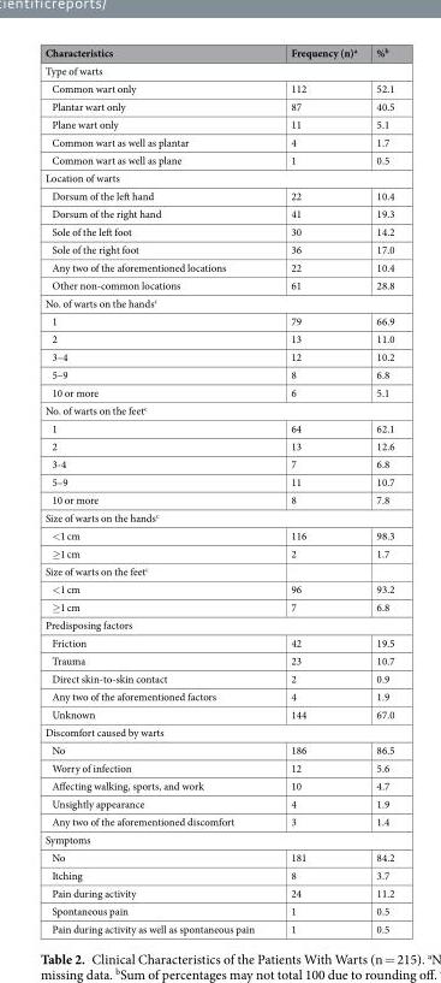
<table><thead><tr><td>Characteristics</td><td>Frequency (n)<sup>a</sup></td><td>%<sup>b</sup></td></tr></thead><tbody><tr><td colspan="3">Type of warts</td></tr><tr><td>Common wart only</td><td>112</td><td>52.1</td></tr><tr><td>Plantar wart only</td><td>87</td><td>40.5</td></tr><tr><td>Plane wart only</td><td>11</td><td>5.1</td></tr><tr><td>Common wart as well as plantar</td><td>4</td><td>1.7</td></tr><tr><td>Common wart as well as plane</td><td>1</td><td>0.5</td></tr><tr><td colspan="3">Location of warts</td></tr><tr><td>Dorsum of the left hand</td><td>22</td><td>10.4</td></tr><tr><td>Dorsum of the right hand</td><td>41</td><td>19.3</td></tr><tr><td>Sole of the left foot</td><td>30</td><td>14.2</td></tr><tr><td>Sole of the right foot</td><td>36</td><td>17.0</td></tr><tr><td>Any two of the aforementioned locations</td><td>22</td><td>10.4</td></tr><tr><td>Other non-common locations</td><td>61</td><td>28.8</td></tr><tr><td colspan="3">No. of warts on the hands<sup>c</sup></td></tr><tr><td>1</td><td>79</td><td>66.9</td></tr><tr><td>2</td><td>13</td><td>11.0</td></tr><tr><td>3–4</td><td>12</td><td>10.2</td></tr><tr><td>5–9</td><td>8</td><td>6.8</td></tr><tr><td>10 or more</td><td>6</td><td>5.1</td></tr><tr><td colspan="3">No. of warts on the feet<sup>c</sup></td></tr><tr><td>1</td><td>64</td><td>62.1</td></tr><tr><td>2</td><td>13</td><td>12.6</td></tr><tr><td>3-4</td><td>7</td><td>6.8</td></tr><tr><td>5–9</td><td>11</td><td>10.7</td></tr><tr><td>10 or more</td><td>8</td><td>7.8</td></tr><tr><td colspan="3">Size of warts on the hands<sup>c</sup></td></tr><tr><td>&lt;1 cm</td><td>116</td><td>98.3</td></tr><tr><td>≥1 cm</td><td>2</td><td>1.7</td></tr><tr><td colspan="3">Size of warts on the feet<sup>c</sup></td></tr><tr><td>&lt;1 cm</td><td>96</td><td>93.2</td></tr><tr><td>≥1 cm</td><td>7</td><td>6.8</td></tr><tr><td colspan="3">Predisposing factors</td></tr><tr><td>Friction</td><td>42</td><td>19.5</td></tr><tr><td>Trauma</td><td>23</td><td>10.7</td></tr><tr><td>Direct skin-to-skin contact</td><td>2</td><td>0.9</td></tr><tr><td>Any two of the aforementioned factors</td><td>4</td><td>1.9</td></tr><tr><td>Unknown</td><td>144</td><td>67.0</td></tr><tr><td colspan="3">Discomfort caused by warts</td></tr><tr><td>No</td><td>186</td><td>86.5</td></tr><tr><td>Worry of infection</td><td>12</td><td>5.6</td></tr><tr><td>Affecting walking, sports, and work</td><td>10</td><td>4.7</td></tr><tr><td>Unsightly appearance</td><td>4</td><td>1.9</td></tr><tr><td>Any two of the aforementioned discomfort</td><td>3</td><td>1.4</td></tr><tr><td colspan="3">Symptoms</td></tr><tr><td>No</td><td>181</td><td>84.2</td></tr><tr><td>Itching</td><td>8</td><td>3.7</td></tr><tr><td>Pain during activity</td><td>24</td><td>11.2</td></tr><tr><td>Spontaneous pain</td><td>1</td><td>0.5</td></tr><tr><td>Pain during activity as well as spontaneous pain</td><td>1</td><td>0.5</td></tr></tbody></table>